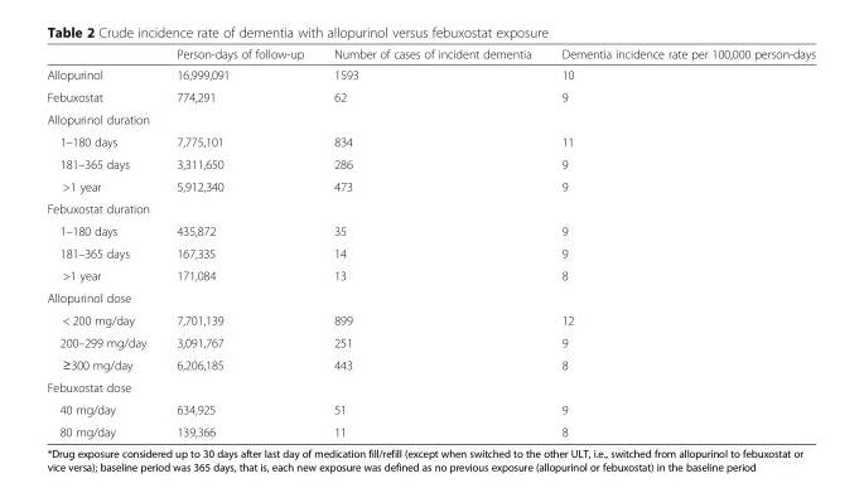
<table><thead><tr><td></td><td>Person-days of follow-up</td><td>Number of cases of incident dementia</td><td>Dementia incidence rate per 100,000 person-days</td></tr></thead><tbody><tr><td>Allopurinol</td><td>16,999,091</td><td>1593</td><td>10</td></tr><tr><td>Febuxostat</td><td>774,291</td><td>62</td><td>9</td></tr><tr><td colspan="4">Allopurinol duration</td></tr><tr><td>1–180 days</td><td>7,775,101</td><td>834</td><td>11</td></tr><tr><td>181–365 days</td><td>3,311,650</td><td>286</td><td>9</td></tr><tr><td>&gt;1 year</td><td>5,912,340</td><td>473</td><td>9</td></tr><tr><td colspan="4">Febuxostat duration</td></tr><tr><td>1–180 days</td><td>435,872</td><td>35</td><td>9</td></tr><tr><td>181–365 days</td><td>167,335</td><td>14</td><td>9</td></tr><tr><td>&gt;1 year</td><td>171,084</td><td>13</td><td>8</td></tr><tr><td colspan="4">Allopurinol dose</td></tr><tr><td>&lt; 200 mg/day</td><td>7,701,139</td><td>899</td><td>12</td></tr><tr><td>200–299 mg/day</td><td>3,091,767</td><td>251</td><td>9</td></tr><tr><td>≥300 mg/day</td><td>6,206,185</td><td>443</td><td>8</td></tr><tr><td colspan="4">Febuxostat dose</td></tr><tr><td>40 mg/day</td><td>634,925</td><td>51</td><td>9</td></tr><tr><td>80 mg/day</td><td>139,366</td><td>11</td><td>8</td></tr></tbody></table>